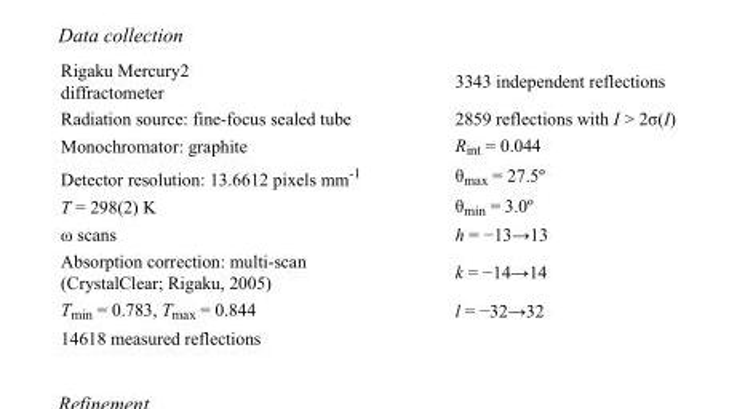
<table><tbody><tr><td>Rigaku Mercury2 diffractometer</td><td>3343 independent reflections</td></tr><tr><td>Radiation source: fine-focus sealed tube</td><td>2859 reflections with I &gt; 2σ(I)</td></tr><tr><td>Monochromator: graphite</td><td>R<sub>int</sub> = 0.044</td></tr><tr><td>Detector resolution: 13.6612 pixels mm<sup>-1</sup></td><td>θ<sub>max</sub> = 27.5º</td></tr><tr><td>T = 298(2) K</td><td>θ<sub>min</sub> = 3.0º</td></tr><tr><td>ω scans</td><td>h = −13→13</td></tr><tr><td>Absorption correction: multi-scan (CrystalClear; Rigaku, 2005)</td><td>k = −14→14</td></tr><tr><td>T<sub>min</sub> = 0.783, T<sub>max</sub> = 0.844</td><td>l = −32→32</td></tr><tr><td>14618 measured reflections</td><td></td></tr></tbody></table>